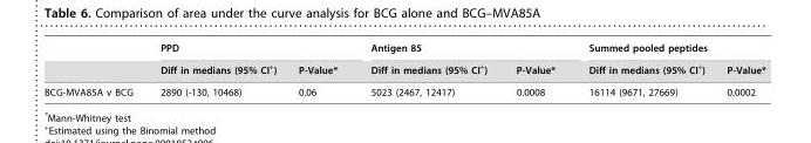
<table><thead><tr><td rowspan="2"></td><td colspan="2">PPD</td><td colspan="2">Antigen 85</td><td colspan="2">Summed pooled peptides</td></tr><tr><td>Diff in medians (95% CI+)</td><td>P-Value*</td><td>Diff in medians (95% CI+)</td><td>P-Value*</td><td>Diff in medians (95% CI+)</td><td>P-Value*</td></tr></thead><tbody><tr><td>BCG-MVA85A v BCG</td><td>2890 (-130, 10468)</td><td>0.06</td><td>5023 (2467, 12417)</td><td>0.0008</td><td>16114 (9671, 27669)</td><td>0.0002</td></tr></tbody></table>